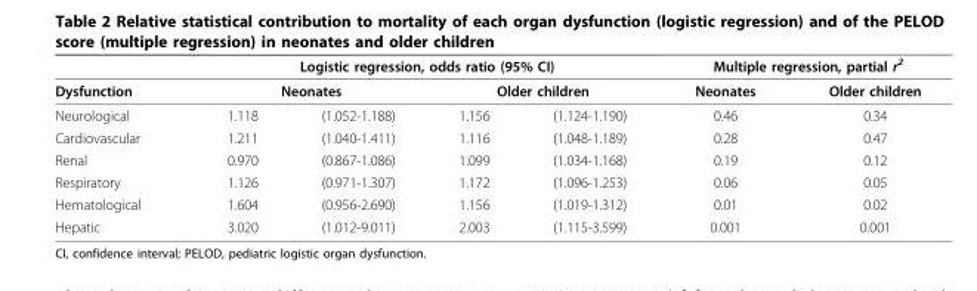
<table><thead><tr><td rowspan="3">Dysfunction Neurological</td><td colspan="4">Logistic regression, odds ratio (95% CI)</td><td colspan="2">Multiple regression, partial r2</td></tr><tr><td colspan="2">Neonates</td><td colspan="2">Older children</td><td rowspan="2">Neonates 0.46</td><td rowspan="2">Older children 0.34</td></tr><tr><td>1.118</td><td>(1.052-1.188)</td><td>1.156</td><td>(1.124-1.190)</td></tr></thead><tbody><tr><td>Cardiovascular</td><td>1.211</td><td>(1.040-1.411)</td><td>1.116</td><td>(1.048-1.189)</td><td>0.28</td><td>0.47</td></tr><tr><td>Renal</td><td>0.970</td><td>(0.867-1.086)</td><td>1.099</td><td>(1.034-1.168)</td><td>0.19</td><td>0.12</td></tr><tr><td>Respiratory</td><td>1.126</td><td>(0.971-1.307)</td><td>1.172</td><td>(1.096-1.253)</td><td>0.06</td><td>0.05</td></tr><tr><td>Hematological</td><td>1.604</td><td>(0.956-2.690)</td><td>1.156</td><td>(1.019-1.312)</td><td>0.01</td><td>0.02</td></tr><tr><td>Hepatic</td><td>3.020</td><td>(1.012-9.011)</td><td>2.003</td><td>(1.115-3.599)</td><td>0.001</td><td>0.001</td></tr></tbody></table>